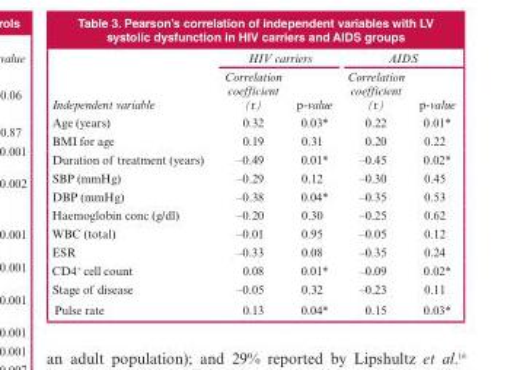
<table><thead><tr><td rowspan="2">Independent variable</td><td colspan="2">HIV carriers</td><td colspan="2">AIDS</td></tr><tr><td>Correlation coefficient (r)</td><td>p-value</td><td>Correlation coefficient (r)</td><td>p-value</td></tr></thead><tbody><tr><td>Age (years)</td><td>0.32</td><td>0.03*</td><td>0.22</td><td>0.01*</td></tr><tr><td>BMI for age</td><td>0.19</td><td>0.31</td><td>0.20</td><td>0.22</td></tr><tr><td>Duration of treatment (years)</td><td>–0.49</td><td>0.01*</td><td>–0.45</td><td>0.02*</td></tr><tr><td>SBP (mmHg)</td><td>–0.29</td><td>0.12</td><td>–0.30</td><td>0.45</td></tr><tr><td>DBP (mmHg)</td><td>–0.38</td><td>0.04*</td><td>–0.35</td><td>0.53</td></tr><tr><td>Haemoglobin conc (g/dl)</td><td>–0.20</td><td>0.30</td><td>–0.25</td><td>0.62</td></tr><tr><td>WBC (total)</td><td>–0.01</td><td>0.95</td><td>–0.05</td><td>0.12</td></tr><tr><td>ESR</td><td>–0.33</td><td>0.08</td><td>–0.35</td><td>0.24</td></tr><tr><td>CD4<sup>+</sup> cell count</td><td>0.08</td><td>0.01*</td><td>–0.09</td><td>0.02*</td></tr><tr><td>Stage of disease</td><td>–0.05</td><td>0.32</td><td>–0.23</td><td>0.11</td></tr><tr><td>Pulse rate</td><td>0.13</td><td>0.04*</td><td>0.15</td><td>0.03*</td></tr></tbody></table>